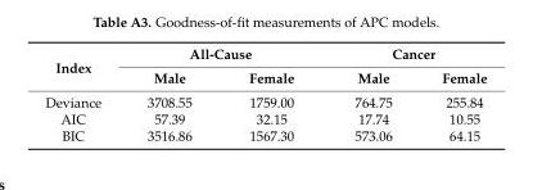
<table><thead><tr><td rowspan="2">Index</td><td colspan="2">All-Cause</td><td colspan="2">Cancer</td></tr><tr><td>Male</td><td>Female</td><td>Male</td><td>Female</td></tr></thead><tbody><tr><td>Deviance</td><td>3708.55</td><td>1759.00</td><td>764.75</td><td>255.84</td></tr><tr><td>AIC</td><td>57.39</td><td>32.15</td><td>17.74</td><td>10.55</td></tr><tr><td>BIC</td><td>3516.86</td><td>1567.30</td><td>573.06</td><td>64.15</td></tr></tbody></table>